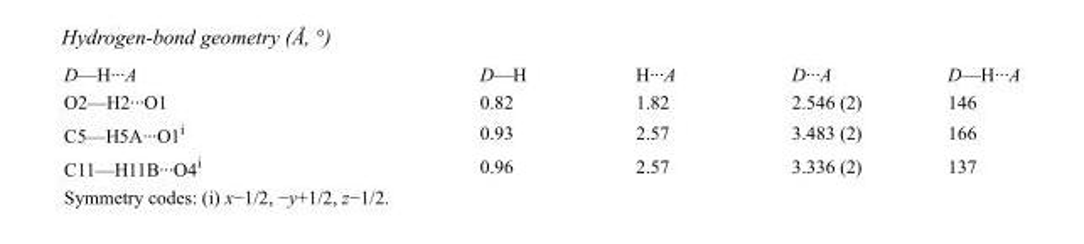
<table><tbody><tr><td>D—H···A</td><td>D—H</td><td>H···A</td><td>D···A</td><td>D—H···A</td></tr><tr><td>O2—H2···O1</td><td>0.82</td><td>1.82</td><td>2.546 (2)</td><td>146</td></tr><tr><td>C5—H5A···O1<sup>i</sup></td><td>0.93</td><td>2.57</td><td>3.483 (2)</td><td>166</td></tr><tr><td>C11—H11B···O4<sup>i</sup></td><td>0.96</td><td>2.57</td><td>3.336 (2)</td><td>137</td></tr></tbody></table>